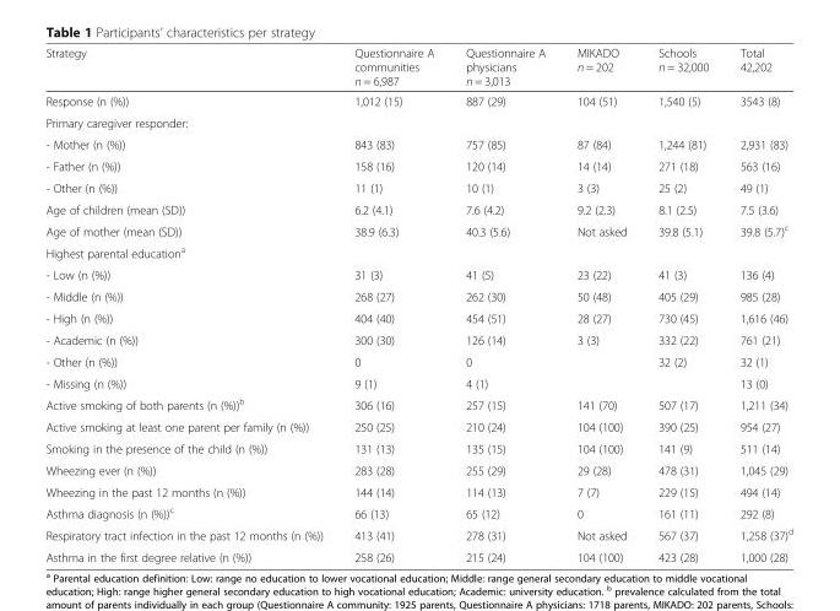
<table><thead><tr><td>Strategy</td><td>Questionnaire A communities n = 6,987</td><td>Questionnaire A physicians n = 3,013</td><td>MIKADO n = 202</td><td>Schools n = 32,000</td><td>Total 42,202</td></tr></thead><tbody><tr><td>Response (n (%))</td><td>1,012 (15)</td><td>887 (29)</td><td>104 (51)</td><td>1,540 (5)</td><td>3543 (8)</td></tr><tr><td colspan="6">Primary caregiver responder:</td></tr><tr><td>- Mother (n (%))</td><td>843 (83)</td><td>757 (85)</td><td>87 (84)</td><td>1,244 (81)</td><td>2,931 (83)</td></tr><tr><td>- Father (n (%))</td><td>158 (16)</td><td>120 (14)</td><td>14 (14)</td><td>271 (18)</td><td>563 (16)</td></tr><tr><td>- Other (n (%))</td><td>11 (1)</td><td>10 (1)</td><td>3 (3)</td><td>25 (2)</td><td>49 (1)</td></tr><tr><td>Age of children (mean (SD))</td><td>6.2 (4.1)</td><td>7.6 (4.2)</td><td>9.2 (2.3)</td><td>8.1 (2.5)</td><td>7.5 (3.6)</td></tr><tr><td>Age of mother (mean (SD))</td><td>38.9 (6.3)</td><td>40.3 (5.6)</td><td>Not asked</td><td>39.8 (5.1)</td><td>39.8 (5.7)<sup>c</sup></td></tr><tr><td colspan="6">Highest parental education<sup>a</sup></td></tr><tr><td>- Low (n (%))</td><td>31 (3)</td><td>41 (5)</td><td>23 (22)</td><td>41 (3)</td><td>136 (4)</td></tr><tr><td>- Middle (n (%))</td><td>268 (27)</td><td>262 (30)</td><td>50 (48)</td><td>405 (29)</td><td>985 (28)</td></tr><tr><td>- High (n (%))</td><td>404 (40)</td><td>454 (51)</td><td>28 (27)</td><td>730 (45)</td><td>1,616 (46)</td></tr><tr><td>- Academic (n (%))</td><td>300 (30)</td><td>126 (14)</td><td>3 (3)</td><td>332 (22)</td><td>761 (21)</td></tr><tr><td>- Other (n (%))</td><td>0</td><td>0</td><td></td><td>32 (2)</td><td>32 (1)</td></tr><tr><td>- Missing (n (%))</td><td>9 (1)</td><td>4 (1)</td><td></td><td></td><td>13 (0)</td></tr><tr><td>Active smoking of both parents (n (%))<sup>b</sup></td><td>306 (16)</td><td>257 (15)</td><td>141 (70)</td><td>507 (17)</td><td>1,211 (34)</td></tr><tr><td>Active smoking at least one parent per family (n (%))</td><td>250 (25)</td><td>210 (24)</td><td>104 (100)</td><td>390 (25)</td><td>954 (27)</td></tr><tr><td>Smoking in the presence of the child (n (%))</td><td>131 (13)</td><td>135 (15)</td><td>104 (100)</td><td>141 (9)</td><td>511 (14)</td></tr><tr><td>Wheezing ever (n (%))</td><td>283 (28)</td><td>255 (29)</td><td>29 (28)</td><td>478 (31)</td><td>1,045 (29)</td></tr><tr><td>Wheezing in the past 12 months (n (%))</td><td>144 (14)</td><td>114 (13)</td><td>7 (7)</td><td>229 (15)</td><td>494 (14)</td></tr><tr><td>Asthma diagnosis (n (%))<sup>c</sup></td><td>66 (13)</td><td>65 (12)</td><td>0</td><td>161 (11)</td><td>292 (8)</td></tr><tr><td>Respiratory tract infection in the past 12 months (n (%))</td><td>413 (41)</td><td>278 (31)</td><td>Not asked</td><td>567 (37)</td><td>1,258 (37)<sup>d</sup></td></tr><tr><td>Asthma in the first degree relative (n (%))</td><td>258 (26)</td><td>215 (24)</td><td>104 (100)</td><td>423 (28)</td><td>1,000 (28)</td></tr></tbody></table>